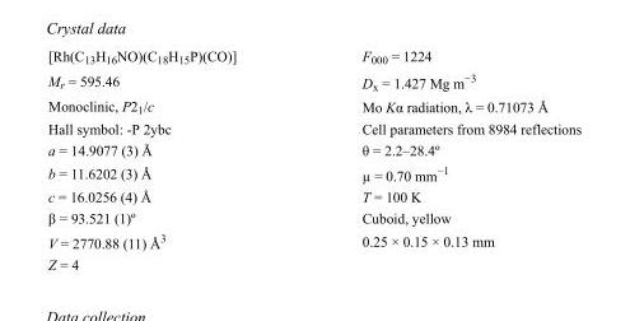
<table><tbody><tr><td>[Rh(C<sub>13</sub>H<sub>16</sub>NO)(C<sub>18</sub>H<sub>15</sub>P)(CO)]</td><td>F000 = 1224</td></tr><tr><td>M<sub>r</sub> = 595.46</td><td>D<sub>x</sub> = 1.427 Mg m<sup>−3</sup></td></tr><tr><td>Monoclinic, P2<sub>1</sub>/c</td><td>Mo Kα radiation, λ = 0.71073 Å</td></tr><tr><td>Hall symbol: -P 2ybc</td><td>Cell parameters from 8984 reflections</td></tr><tr><td>a = 14.9077 (3) Å</td><td>θ = 2.2–28.4º</td></tr><tr><td>b = 11.6202 (3) Å</td><td>µ = 0.70 mm<sup>−1</sup></td></tr><tr><td>c = 16.0256 (4) Å</td><td>T = 100 K</td></tr><tr><td>β = 93.521 (1)º</td><td>Cuboid, yellow</td></tr><tr><td>V = 2770.88 (11) Å<sup>3</sup></td><td>0.25 × 0.15 × 0.13 mm</td></tr><tr><td>Z = 4</td><td></td></tr></tbody></table>